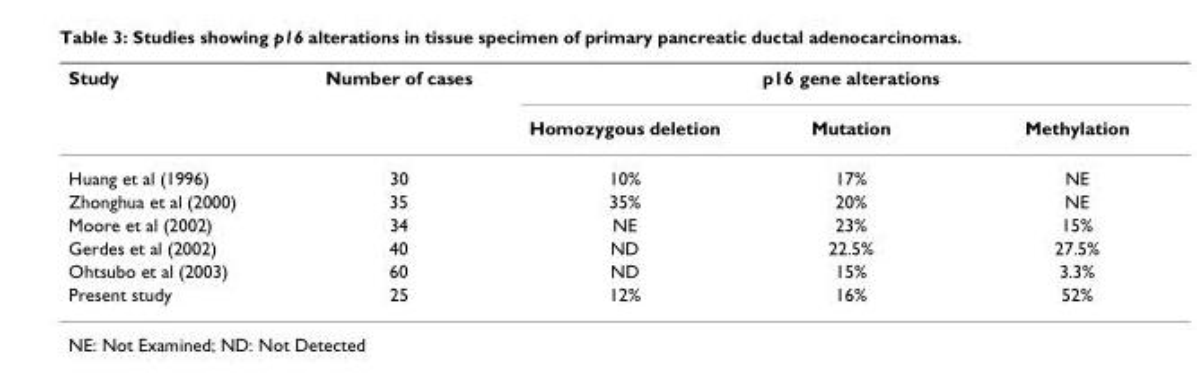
<table><thead><tr><td rowspan="2">Study</td><td rowspan="2">Number of cases</td><td colspan="3">p16 gene alterations</td></tr><tr><td>Homozygous deletion</td><td>Mutation</td><td>Methylation</td></tr></thead><tbody><tr><td>Huang et al (1996)</td><td>30</td><td>10%</td><td>17%</td><td>NE</td></tr><tr><td>Zhonghua et al (2000)</td><td>35</td><td>35%</td><td>20%</td><td>NE</td></tr><tr><td>Moore et al (2002)</td><td>34</td><td>NE</td><td>23%</td><td>15%</td></tr><tr><td>Gerdes et al (2002)</td><td>40</td><td>ND</td><td>22.5%</td><td>27.5%</td></tr><tr><td>Ohtsubo et al (2003)</td><td>60</td><td>ND</td><td>15%</td><td>3.3%</td></tr><tr><td>Present study</td><td>25</td><td>12%</td><td>16%</td><td>52%</td></tr></tbody></table>